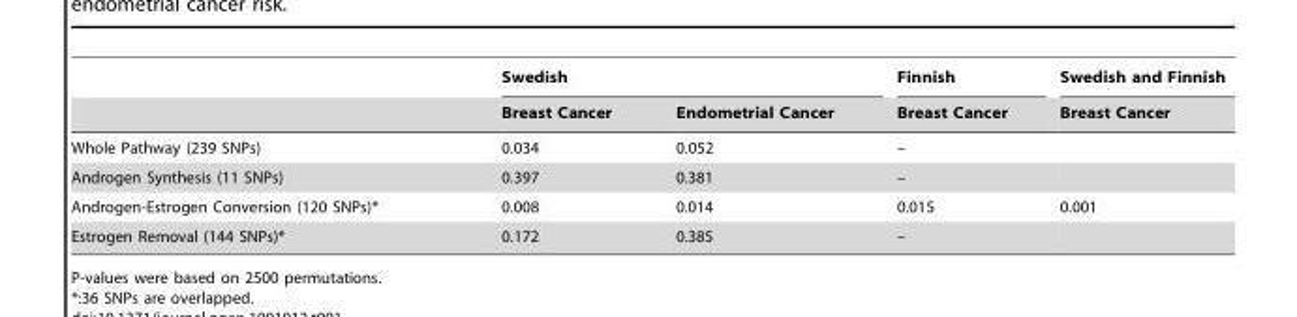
<table><thead><tr><td rowspan="2"></td><td colspan="2">Swedish</td><td rowspan="2">Finnish Breast Cancer</td><td rowspan="2">Swedish and Finnish Breast Cancer</td></tr><tr><td>Breast Cancer</td><td>Endometrial Cancer</td></tr></thead><tbody><tr><td>Whole Pathway (239 SNPs)</td><td>0.034</td><td>0.052</td><td>–</td><td></td></tr><tr><td>Androgen Synthesis (11 SNPs)</td><td>0.397</td><td>0.381</td><td>–</td><td></td></tr><tr><td>Androgen-Estrogen Conversion (120 SNPs)*</td><td>0.008</td><td>0.014</td><td>0.015</td><td>0.001</td></tr><tr><td>Estrogen Removal (144 SNPs)*</td><td>0.172</td><td>0.385</td><td>–</td><td></td></tr></tbody></table>